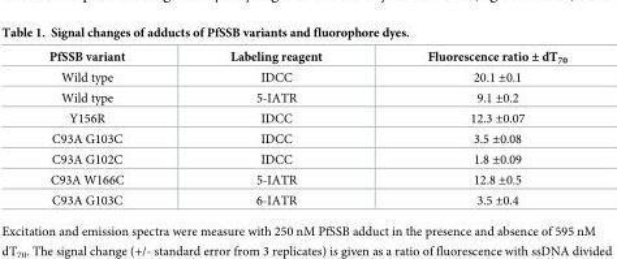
<table><thead><tr><td>PfSSB variant</td><td>Labeling reagent</td><td>Fluorescence ratio ± dT<sub>70</sub></td></tr></thead><tbody><tr><td>Wild type</td><td>IDCC</td><td>20.1 ±0.1</td></tr><tr><td>Wild type</td><td>5-IATR</td><td>9.1 ±0.2</td></tr><tr><td>Y156R</td><td>IDCC</td><td>12.3 ±0.07</td></tr><tr><td>C93A G103C</td><td>IDCC</td><td>3.5 ±0.08</td></tr><tr><td>C93A G102C</td><td>IDCC</td><td>1.8 ±0.09</td></tr><tr><td>C93A W166C</td><td>5-IATR</td><td>12.8 ±0.5</td></tr><tr><td>C93A G103C</td><td>6-IATR</td><td>3.5 ±0.4</td></tr></tbody></table>